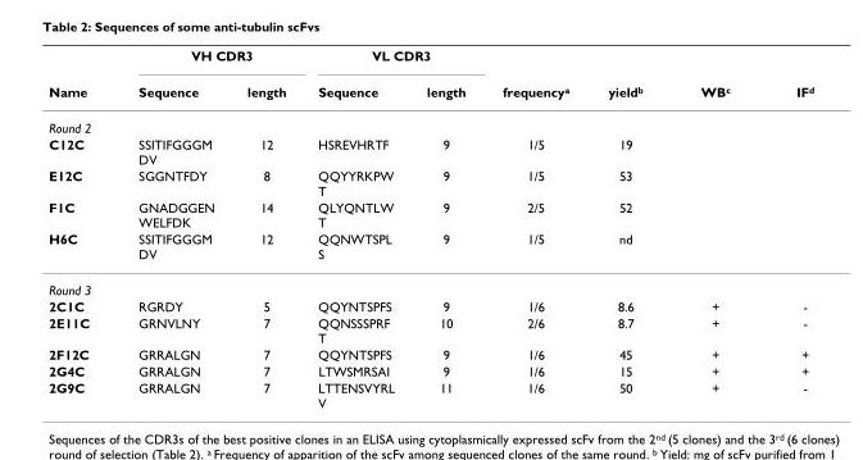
<table><thead><tr><td rowspan="2">Name</td><td colspan="2">VH CDR3</td><td colspan="2">VL CDR3</td><td rowspan="2">frequency<sup>a</sup></td><td rowspan="2">yield<sup>b</sup></td><td rowspan="2">WB<sup>c</sup></td><td rowspan="2">IF<sup>d</sup></td></tr><tr><td>Sequence</td><td>length</td><td>Sequence</td><td>length</td></tr></thead><tbody><tr><td colspan="9">Round 2</td></tr><tr><td>C12C</td><td>SSITIFGGGM DV</td><td>12</td><td>HSREVHRTF</td><td>9</td><td>1/5</td><td>19</td><td></td><td></td></tr><tr><td>E12C</td><td>SGGNTFDY</td><td>8</td><td>QQYYRKPW T</td><td>9</td><td>1/5</td><td>53</td><td></td><td></td></tr><tr><td>F1C</td><td>GNADGGEN WELFDK</td><td>14</td><td>QLYQNTLW T</td><td>9</td><td>2/5</td><td>52</td><td></td><td></td></tr><tr><td>H6C</td><td>SSITIFGGGM DV</td><td>12</td><td>QQNWTSPL S</td><td>9</td><td>1/5</td><td>nd</td><td></td><td></td></tr><tr><td colspan="9">Round 3</td></tr><tr><td>2C1C</td><td>RGRDY</td><td>5</td><td>QQYNTSPFS</td><td>9</td><td>1/6</td><td>8.6</td><td>+</td><td>-</td></tr><tr><td>2E11C</td><td>GRNVLNY</td><td>7</td><td>QQNSSSPRF T</td><td>10</td><td>2/6</td><td>8.7</td><td>+</td><td>-</td></tr><tr><td>2F12C</td><td>GRRALGN</td><td>7</td><td>QQYNTSPFS</td><td>9</td><td>1/6</td><td>45</td><td>+</td><td>+</td></tr><tr><td>2G4C</td><td>GRRALGN</td><td>7</td><td>LTWSMRSAI</td><td>9</td><td>1/6</td><td>15</td><td>+</td><td>+</td></tr><tr><td>2G9C</td><td>GRRALGN</td><td>7</td><td>LTTENSVYRL V</td><td>11</td><td>1/6</td><td>50</td><td>+</td><td>-</td></tr></tbody></table>